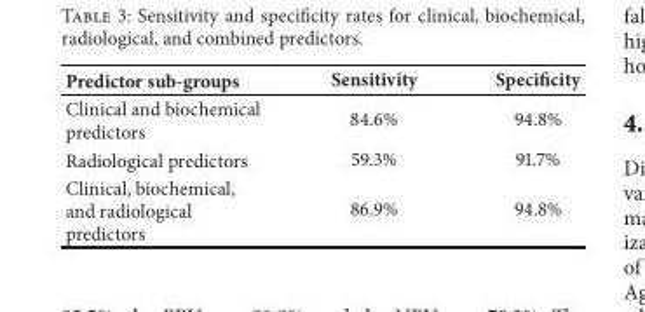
<table><thead><tr><td>Predictor sub-groups</td><td>Sensitivity</td><td>Specificity</td></tr></thead><tbody><tr><td>Clinical and biochemical predictors</td><td>84.6%</td><td>94.8%</td></tr><tr><td>Radiological predictors</td><td>59.3%</td><td>91.7%</td></tr><tr><td>Clinical, biochemical, and radiological predictors</td><td>86.9%</td><td>94.8%</td></tr></tbody></table>